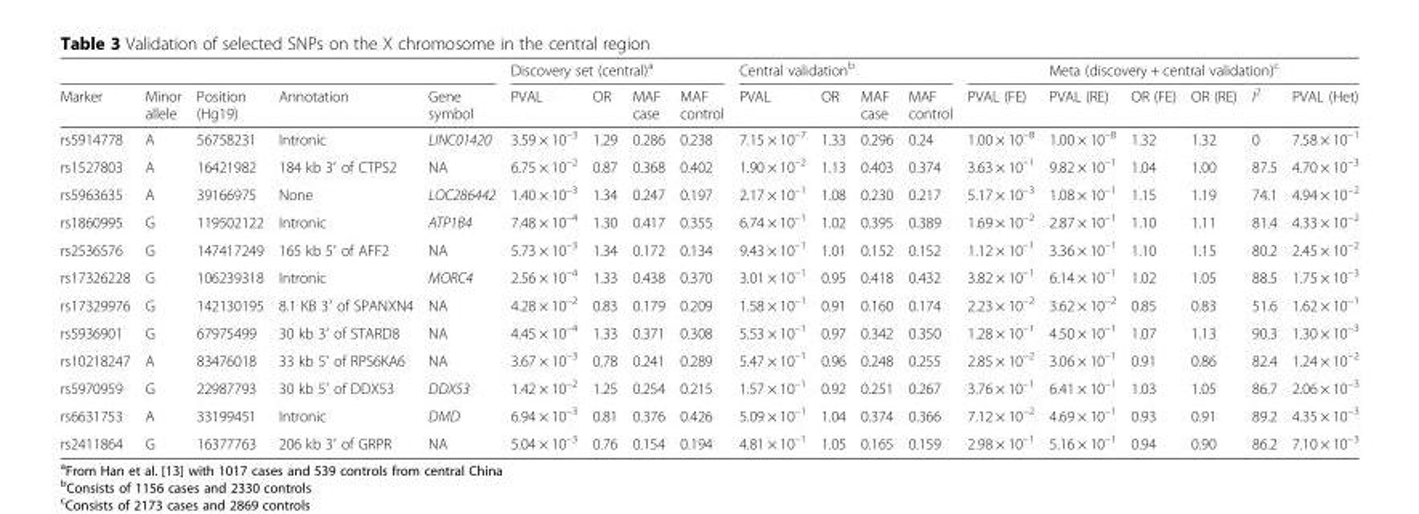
<table><thead><tr><td rowspan="2">Marker</td><td rowspan="2">Minor allele</td><td rowspan="2">Position (Hg19)</td><td rowspan="2">Annotation</td><td rowspan="2">Gene symbol</td><td colspan="4">Discovery set (central)<sup>a</sup></td><td colspan="4">Central validation<sup>b</sup></td><td rowspan="2">PVAL (FE)</td><td colspan="5">Meta (discovery + central validation)<sup>c</sup></td></tr><tr><td>PVAL</td><td>OR</td><td>MAF case</td><td>MAF control</td><td>PVAL</td><td>OR</td><td>MAF case</td><td>MAF control</td><td>PVAL (RE)</td><td>OR (FE)</td><td>OR (RE)</td><td>I<sup>2</sup></td><td>PVAL (Het)</td></tr></thead><tbody><tr><td>rs5914778</td><td>A</td><td>56758231</td><td>Intronic</td><td>LINC01420</td><td>3.59 × 10<sup>–3</sup></td><td>1.29</td><td>0.286</td><td>0.238</td><td>7.15 × 10<sup>–7</sup></td><td>1.33</td><td>0.296</td><td>0.24</td><td>1.00 × 10<sup>–8</sup></td><td>1.00 × 10<sup>–8</sup></td><td>1.32</td><td>1.32</td><td>0</td><td>7.58 × 10<sup>–1</sup></td></tr><tr><td>rs1527803</td><td>A</td><td>16421982</td><td>184 kb 3′ of CTPS2</td><td>NA</td><td>6.75 × 10<sup>–2</sup></td><td>0.87</td><td>0.368</td><td>0.402</td><td>1.90 × 10<sup>–2</sup></td><td>1.13</td><td>0.403</td><td>0.374</td><td>3.63 × 10<sup>–1</sup></td><td>9.82 × 10<sup>–1</sup></td><td>1.04</td><td>1.00</td><td>87.5</td><td>4.70 × 10<sup>–3</sup></td></tr><tr><td>rs5963635</td><td>A</td><td>39166975</td><td>None</td><td>LOC286442</td><td>1.40 × 10<sup>–3</sup></td><td>1.34</td><td>0.247</td><td>0.197</td><td>2.17 × 10<sup>–1</sup></td><td>1.08</td><td>0.230</td><td>0.217</td><td>5.17 × 10<sup>–3</sup></td><td>1.08 × 10<sup>–1</sup></td><td>1.15</td><td>1.19</td><td>74.1</td><td>4.94 × 10<sup>–2</sup></td></tr><tr><td>rs1860995</td><td>G</td><td>119502122</td><td>Intronic</td><td>ATP1B4</td><td>7.48 × 10<sup>–4</sup></td><td>1.30</td><td>0.417</td><td>0.355</td><td>6.74 × 10<sup>–1</sup></td><td>1.02</td><td>0.395</td><td>0.389</td><td>1.69 × 10<sup>–2</sup></td><td>2.87 × 10<sup>–1</sup></td><td>1.10</td><td>1.11</td><td>81.4</td><td>4.33 × 10<sup>–2</sup></td></tr><tr><td>rs2536576</td><td>G</td><td>147417249</td><td>165 kb 5′ of AFF2</td><td>NA</td><td>5.73 × 10<sup>–3</sup></td><td>1.34</td><td>0.172</td><td>0.134</td><td>9.43 × 10<sup>–1</sup></td><td>1.01</td><td>0.152</td><td>0.152</td><td>1.12 × 10<sup>–1</sup></td><td>3.36 × 10<sup>–1</sup></td><td>1.10</td><td>1.15</td><td>80.2</td><td>2.45 × 10<sup>–2</sup></td></tr><tr><td>rs17326228</td><td>G</td><td>106239318</td><td>Intronic</td><td>MORC4</td><td>2.56 × 10<sup>–4</sup></td><td>1.33</td><td>0.438</td><td>0.370</td><td>3.01 × 10<sup>–1</sup></td><td>0.95</td><td>0.418</td><td>0.432</td><td>3.82 × 10<sup>–1</sup></td><td>6.14 × 10<sup>–1</sup></td><td>1.02</td><td>1.05</td><td>88.5</td><td>1.75 × 10<sup>–3</sup></td></tr><tr><td>rs17329976</td><td>G</td><td>142130195</td><td>8.1 KB 3′ of SPANXN4</td><td>NA</td><td>4.28 × 10<sup>–2</sup></td><td>0.83</td><td>0.179</td><td>0.209</td><td>1.58 × 10<sup>–1</sup></td><td>0.91</td><td>0.160</td><td>0.174</td><td>2.23 × 10<sup>–2</sup></td><td>3.62 × 10<sup>–2</sup></td><td>0.85</td><td>0.83</td><td>51.6</td><td>1.62 × 10<sup>–1</sup></td></tr><tr><td>rs5936901</td><td>G</td><td>67975499</td><td>30 kb 3′ of STARD8</td><td>NA</td><td>4.45 × 10<sup>–4</sup></td><td>1.33</td><td>0.371</td><td>0.308</td><td>5.53 × 10<sup>–1</sup></td><td>0.97</td><td>0.342</td><td>0.350</td><td>1.28 × 10<sup>–1</sup></td><td>4.50 × 10<sup>–1</sup></td><td>1.07</td><td>1.13</td><td>90.3</td><td>1.30 × 10<sup>–3</sup></td></tr><tr><td>rs10218247</td><td>A</td><td>83476018</td><td>33 kb 5′ of RPS6KA6</td><td>NA</td><td>3.67 × 10<sup>–3</sup></td><td>0.78</td><td>0.241</td><td>0.289</td><td>5.47 × 10<sup>–1</sup></td><td>0.96</td><td>0.248</td><td>0.255</td><td>2.85 × 10<sup>–2</sup></td><td>3.06 × 10<sup>–1</sup></td><td>0.91</td><td>0.86</td><td>82.4</td><td>1.24 × 10<sup>–2</sup></td></tr><tr><td>rs5970959</td><td>G</td><td>22987793</td><td>30 kb 5′ of DDX53</td><td>DDX53</td><td>1.42 × 10<sup>–2</sup></td><td>1.25</td><td>0.254</td><td>0.215</td><td>1.57 × 10<sup>–1</sup></td><td>0.92</td><td>0.251</td><td>0.267</td><td>3.76 × 10<sup>–1</sup></td><td>6.41 × 10<sup>–1</sup></td><td>1.03</td><td>1.05</td><td>86.7</td><td>2.06 × 10<sup>–3</sup></td></tr><tr><td>rs6631753</td><td>A</td><td>33199451</td><td>Intronic</td><td>DMD</td><td>6.94 × 10<sup>–3</sup></td><td>0.81</td><td>0.376</td><td>0.426</td><td>5.09 × 10<sup>–1</sup></td><td>1.04</td><td>0.374</td><td>0.366</td><td>7.12 × 10<sup>–2</sup></td><td>4.69 × 10<sup>–1</sup></td><td>0.93</td><td>0.91</td><td>89.2</td><td>4.35 × 10<sup>–3</sup></td></tr><tr><td>rs2411864</td><td>G</td><td>16377763</td><td>206 kb 3′ of GRPR</td><td>NA</td><td>5.04 × 10<sup>–3</sup></td><td>0.76</td><td>0.154</td><td>0.194</td><td>4.81 × 10<sup>–1</sup></td><td>1.05</td><td>0.165</td><td>0.159</td><td>2.98 × 10<sup>–1</sup></td><td>5.16 × 10<sup>–1</sup></td><td>0.94</td><td>0.90</td><td>86.2</td><td>7.10 × 10<sup>–3</sup></td></tr></tbody></table>